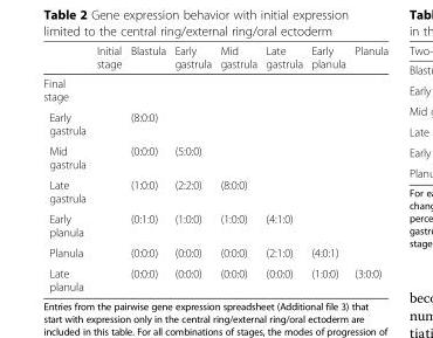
<table><thead><tr><td></td><td>Initial stage</td><td>Blastula</td><td>Early gastrula</td><td>Mid gastrula</td><td>Late gastrula</td><td>Early planula</td><td>Planula</td></tr></thead><tbody><tr><td colspan="8">Final stage</td></tr><tr><td>Early gastrula</td><td></td><td>(8:0:0)</td><td></td><td></td><td></td><td></td><td></td></tr><tr><td>Mid gastrula</td><td></td><td>(0:0:0)</td><td>(5:0:0)</td><td></td><td></td><td></td><td></td></tr><tr><td>Late gastrula</td><td></td><td>(1:0:0)</td><td>(2:2:0)</td><td>(8:0:0)</td><td></td><td></td><td></td></tr><tr><td>Early planula</td><td></td><td>(0:1:0)</td><td>(1:0:0)</td><td>(1:0:0)</td><td>(4:1:0)</td><td></td><td></td></tr><tr><td>Planula</td><td></td><td>(0:0:0)</td><td>(0:0:0)</td><td>(0:0:0)</td><td>(2:1:0)</td><td>(4:0:1)</td><td></td></tr><tr><td>Late planula</td><td></td><td>(0:0:0)</td><td>(0:0:0)</td><td>(0:0:0)</td><td>(0:0:0)</td><td>(1:0:0)</td><td>(3:0:0)</td></tr></tbody></table>